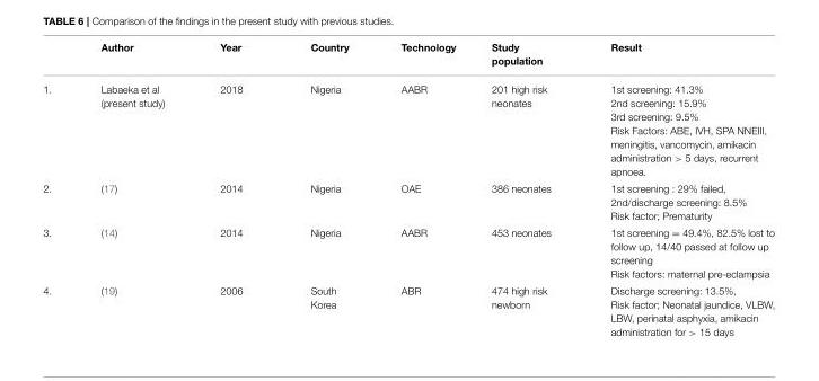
<table><thead><tr><td></td><td>Author</td><td>Year</td><td>Country</td><td>Technology</td><td>Study population</td><td>Result</td></tr></thead><tbody><tr><td>1.</td><td>Labaeka et al (present study)</td><td>2018</td><td>Nigeria</td><td>AABR</td><td>201 high risk neonates</td><td>1st screening: 41.3% 2nd screening: 15.9% 3rd screening: 9.5% Risk Factors: ABE, IVH, SPA NNEIII, meningitis, vancomycin, amikacin administration &gt; 5 days, recurrent apnoea.</td></tr><tr><td>2.</td><td>(17)</td><td>2014</td><td>Nigeria</td><td>OAE</td><td>386 neonates</td><td>1st screening : 29% failed, 2nd/discharge screening: 8.5% Risk factor; Prematurity</td></tr><tr><td>3.</td><td>(14)</td><td>2014</td><td>Nigeria</td><td>AABR</td><td>453 neonates</td><td>1st screening = 49.4%, 82.5% lost to follow up, 14/40 passed at follow up screening Risk factors: maternal pre-eclampsia</td></tr><tr><td>4.</td><td>(19)</td><td>2006</td><td>South Korea</td><td>ABR</td><td>474 high risk newborn</td><td>Discharge screening: 13.5%, Risk factor; Neonatal jaundice, VLBW, LBW, perinatal asphyxia, amikacin administration for &gt; 15 days</td></tr></tbody></table>